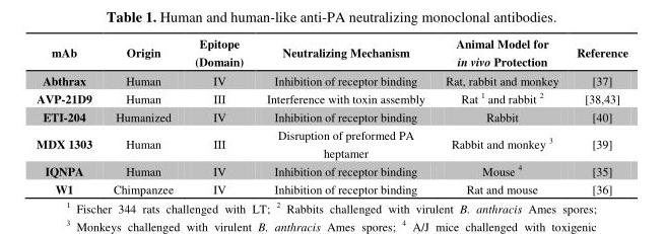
<table><thead><tr><td>mAb</td><td>Origin</td><td>Epitope (Domain)</td><td>Neutralizing Mechanism</td><td>Animal Model for in vivo Protection</td><td>Reference</td></tr></thead><tbody><tr><td>Abthrax</td><td>Human</td><td>IV</td><td>Inhibition of receptor binding</td><td>Rat, rabbit and monkey</td><td>[37]</td></tr><tr><td>AVP-21D9</td><td>Human</td><td>III</td><td>Interference with toxin assembly</td><td>Rat <sup>1</sup> and rabbit <sup>2</sup></td><td>[38,43]</td></tr><tr><td>ETI-204</td><td>Humanized</td><td>IV</td><td>Inhibition of receptor binding</td><td>Rabbit</td><td>[40]</td></tr><tr><td>MDX 1303</td><td>Human</td><td>III</td><td>Disruption of preformed PA heptamer</td><td>Rabbit and monkey <sup>3</sup></td><td>[39]</td></tr><tr><td>IQNPA</td><td>Human</td><td>IV</td><td>Inhibition of receptor binding</td><td>Mouse <sup>4</sup></td><td>[35]</td></tr><tr><td>W1</td><td>Chimpanzee</td><td>IV</td><td>Inhibition of receptor binding</td><td>Rat and mouse</td><td>[36]</td></tr></tbody></table>